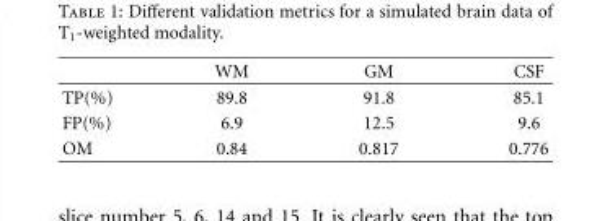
<table><thead><tr><td></td><td>WM</td><td>GM</td><td>CSF</td></tr></thead><tbody><tr><td>TP(%)</td><td>89.8</td><td>91.8</td><td>85.1</td></tr><tr><td>FP(%)</td><td>6.9</td><td>12.5</td><td>9.6</td></tr><tr><td>OM</td><td>0.84</td><td>0.817</td><td>0.776</td></tr></tbody></table>